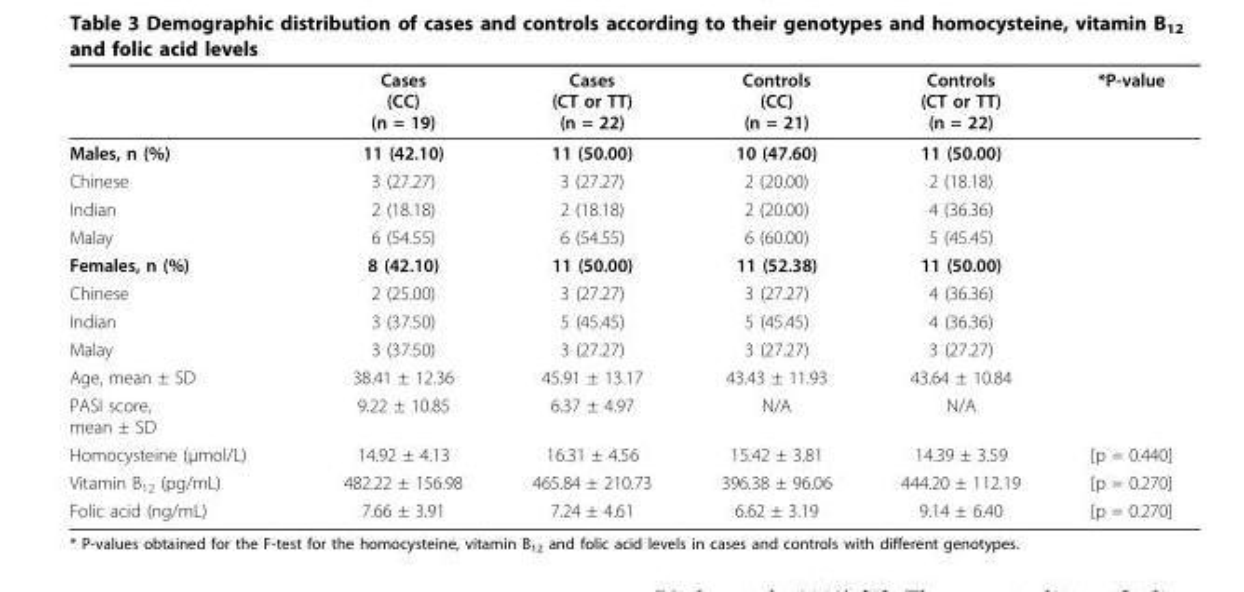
<table><thead><tr><td></td><td>Cases (CC) (n = 19)</td><td>Cases (CT or TT) (n = 22)</td><td>Controls (CC) (n = 21)</td><td>Controls (CT or TT) (n = 22)</td><td>*P-value</td></tr></thead><tbody><tr><td>Males, n (%)</td><td>11 (42.10)</td><td>11 (50.00)</td><td>10 (47.60)</td><td>11 (50.00)</td><td></td></tr><tr><td>Chinese</td><td>3 (27.27)</td><td>3 (27.27)</td><td>2 (20.00)</td><td>2 (18.18)</td><td></td></tr><tr><td>Indian</td><td>2 (18.18)</td><td>2 (18.18)</td><td>2 (20.00)</td><td>4 (36.36)</td><td></td></tr><tr><td>Malay</td><td>6 (54.55)</td><td>6 (54.55)</td><td>6 (60.00)</td><td>5 (45.45)</td><td></td></tr><tr><td>Females, n (%)</td><td>8 (42.10)</td><td>11 (50.00)</td><td>11 (52.38)</td><td>11 (50.00)</td><td></td></tr><tr><td>Chinese</td><td>2 (25.00)</td><td>3 (27.27)</td><td>3 (27.27)</td><td>4 (36.36)</td><td></td></tr><tr><td>Indian</td><td>3 (37.50)</td><td>5 (45.45)</td><td>5 (45.45)</td><td>4 (36.36)</td><td></td></tr><tr><td>Malay</td><td>3 (37.50)</td><td>3 (27.27)</td><td>3 (27.27)</td><td>3 (27.27)</td><td></td></tr><tr><td>Age, mean ± SD</td><td>38.41 ± 12.36</td><td>45.91 ± 13.17</td><td>43.43 ± 11.93</td><td>43.64 ± 10.84</td><td></td></tr><tr><td>PASI score, mean ± SD</td><td>9.22 ± 10.85</td><td>6.37 ± 4.97</td><td>N/A</td><td>N/A</td><td></td></tr><tr><td>Homocysteine (μmol/L)</td><td>14.92 ± 4.13</td><td>16.31 ± 4.56</td><td>15.42 ± 3.81</td><td>14.39 ± 3.59</td><td>[p = 0.440]</td></tr><tr><td>Vitamin B<sub>12</sub> (pg/mL)</td><td>482.22 ± 156.98</td><td>465.84 ± 210.73</td><td>396.38 ± 96.06</td><td>444.20 ± 112.19</td><td>[p = 0.270]</td></tr><tr><td>Folic acid (ng/mL)</td><td>7.66 ± 3.91</td><td>7.24 ± 4.61</td><td>6.62 ± 3.19</td><td>9.14 ± 6.40</td><td>[p = 0.270]</td></tr></tbody></table>